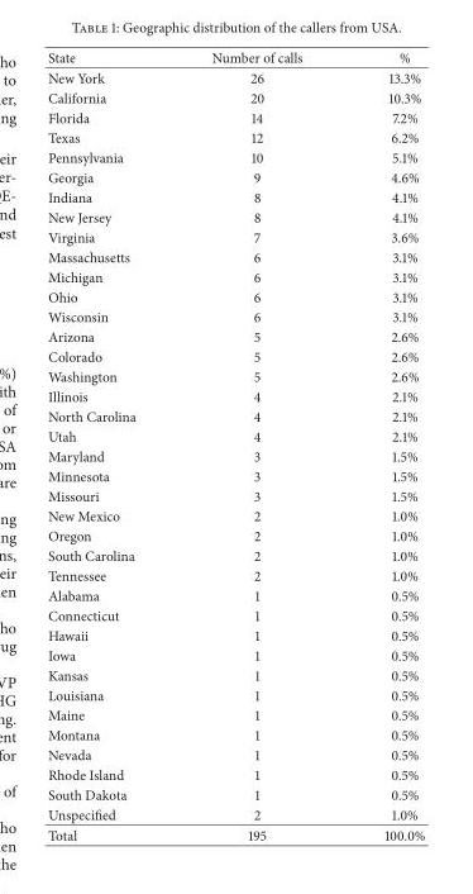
<table><thead><tr><td>State</td><td>Number of calls</td><td>%</td></tr></thead><tbody><tr><td>New York</td><td>26</td><td>13.3%</td></tr><tr><td>California</td><td>20</td><td>10.3%</td></tr><tr><td>Florida</td><td>14</td><td>7.2%</td></tr><tr><td>Texas</td><td>12</td><td>6.2%</td></tr><tr><td>Pennsylvania</td><td>10</td><td>5.1%</td></tr><tr><td>Georgia</td><td>9</td><td>4.6%</td></tr><tr><td>Indiana</td><td>8</td><td>4.1%</td></tr><tr><td>New Jersey</td><td>8</td><td>4.1%</td></tr><tr><td>Virginia</td><td>7</td><td>3.6%</td></tr><tr><td>Massachusetts</td><td>6</td><td>3.1%</td></tr><tr><td>Michigan</td><td>6</td><td>3.1%</td></tr><tr><td>Ohio</td><td>6</td><td>3.1%</td></tr><tr><td>Wisconsin</td><td>6</td><td>3.1%</td></tr><tr><td>Arizona</td><td>5</td><td>2.6%</td></tr><tr><td>Colorado</td><td>5</td><td>2.6%</td></tr><tr><td>Washington</td><td>5</td><td>2.6%</td></tr><tr><td>Illinois</td><td>4</td><td>2.1%</td></tr><tr><td>North Carolina</td><td>4</td><td>2.1%</td></tr><tr><td>Utah</td><td>4</td><td>2.1%</td></tr><tr><td>Maryland</td><td>3</td><td>1.5%</td></tr><tr><td>Minnesota</td><td>3</td><td>1.5%</td></tr><tr><td>Missouri</td><td>3</td><td>1.5%</td></tr><tr><td>New Mexico</td><td>2</td><td>1.0%</td></tr><tr><td>Oregon</td><td>2</td><td>1.0%</td></tr><tr><td>South Carolina</td><td>2</td><td>1.0%</td></tr><tr><td>Tennessee</td><td>2</td><td>1.0%</td></tr><tr><td>Alabama</td><td>1</td><td>0.5%</td></tr><tr><td>Connecticut</td><td>1</td><td>0.5%</td></tr><tr><td>Hawaii</td><td>1</td><td>0.5%</td></tr><tr><td>Iowa</td><td>1</td><td>0.5%</td></tr><tr><td>Kansas</td><td>1</td><td>0.5%</td></tr><tr><td>Louisiana</td><td>1</td><td>0.5%</td></tr><tr><td>Maine</td><td>1</td><td>0.5%</td></tr><tr><td>Montana</td><td>1</td><td>0.5%</td></tr><tr><td>Nevada</td><td>1</td><td>0.5%</td></tr><tr><td>Rhode Island</td><td>1</td><td>0.5%</td></tr><tr><td>South Dakota</td><td>1</td><td>0.5%</td></tr><tr><td>Unspecified</td><td>2</td><td>1.0%</td></tr><tr><td>Total</td><td>195</td><td>100.0%</td></tr></tbody></table>